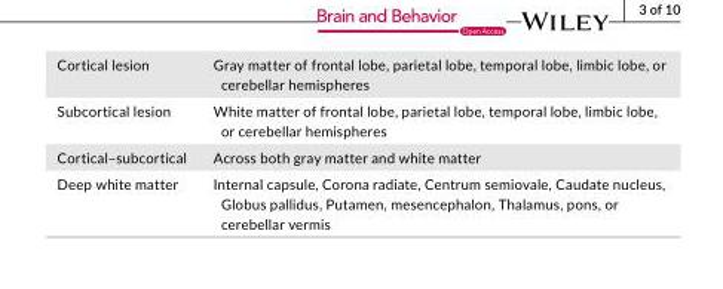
<table><tbody><tr><td>Cortical lesion</td><td>Gray matter of frontal lobe, parietal lobe, temporal lobe, limbic lobe, or cerebellar hemispheres</td></tr><tr><td>Subcortical lesion</td><td>White matter of frontal lobe, parietal lobe, temporal lobe, limbic lobe, or cerebellar hemispheres</td></tr><tr><td>Cortical–subcortical</td><td>Across both gray matter and white matter</td></tr><tr><td>Deep white matter</td><td>Internal capsule, Corona radiate, Centrum semiovale, Caudate nucleus, Globus pallidus, Putamen, mesencephalon, Thalamus, pons, or cerebellar vermis</td></tr></tbody></table>